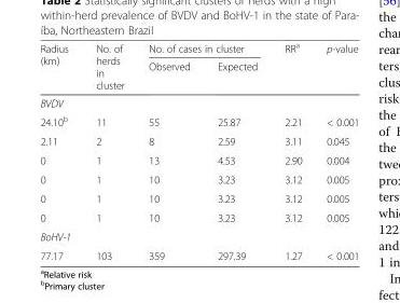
<table><thead><tr><td rowspan="2">Radius (km)</td><td rowspan="2">No. of herds in cluster</td><td colspan="2">No. of cases in cluster</td><td rowspan="2">RR<sup>a</sup></td><td rowspan="2">p-value</td></tr><tr><td>Observed</td><td>Expected</td></tr></thead><tbody><tr><td colspan="6">BVDV</td></tr><tr><td>24.10<sup>b</sup></td><td>11</td><td>55</td><td>25.87</td><td>2.21</td><td>&lt; 0.001</td></tr><tr><td>2.11</td><td>2</td><td>8</td><td>2.59</td><td>3.11</td><td>0.045</td></tr><tr><td>0</td><td>1</td><td>13</td><td>4.53</td><td>2.90</td><td>0.004</td></tr><tr><td>0</td><td>1</td><td>10</td><td>3.23</td><td>3.12</td><td>0.005</td></tr><tr><td>0</td><td>1</td><td>10</td><td>3.23</td><td>3.12</td><td>0.005</td></tr><tr><td>0</td><td>1</td><td>10</td><td>3.23</td><td>3.12</td><td>0.005</td></tr><tr><td colspan="6">BoHV-1</td></tr><tr><td>77.17</td><td>103</td><td>359</td><td>297.39</td><td>1.27</td><td>&lt; 0.001</td></tr></tbody></table>